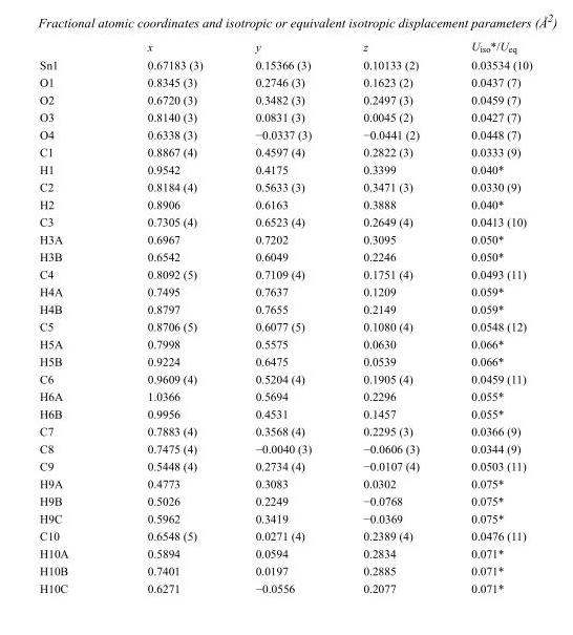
<table><thead><tr><td></td><td>x</td><td>y</td><td>z</td><td>U<sub>iso</sub>*/U<sub>eq</sub></td></tr></thead><tbody><tr><td>Sn1</td><td>0.67183 (3)</td><td>0.15366 (3)</td><td>0.10133 (2)</td><td>0.03534 (10)</td></tr><tr><td>O1</td><td>0.8345 (3)</td><td>0.2746 (3)</td><td>0.1623 (2)</td><td>0.0437 (7)</td></tr><tr><td>O2</td><td>0.6720 (3)</td><td>0.3482 (3)</td><td>0.2497 (3)</td><td>0.0459 (7)</td></tr><tr><td>O3</td><td>0.8140 (3)</td><td>0.0831 (3)</td><td>0.0045 (2)</td><td>0.0427 (7)</td></tr><tr><td>O4</td><td>0.6338 (3)</td><td>−0.0337 (3)</td><td>−0.0441 (2)</td><td>0.0448 (7)</td></tr><tr><td>C1</td><td>0.8867 (4)</td><td>0.4597 (4)</td><td>0.2822 (3)</td><td>0.0333 (9)</td></tr><tr><td>H1</td><td>0.9542</td><td>0.4175</td><td>0.3399</td><td>0.040*</td></tr><tr><td>C2</td><td>0.8184 (4)</td><td>0.5633 (3)</td><td>0.3471 (3)</td><td>0.0330 (9)</td></tr><tr><td>H2</td><td>0.8906</td><td>0.6163</td><td>0.3888</td><td>0.040*</td></tr><tr><td>C3</td><td>0.7305 (4)</td><td>0.6523 (4)</td><td>0.2649 (4)</td><td>0.0413 (10)</td></tr><tr><td>H3A</td><td>0.6967</td><td>0.7202</td><td>0.3095</td><td>0.050*</td></tr><tr><td>H3B</td><td>0.6542</td><td>0.6049</td><td>0.2246</td><td>0.050*</td></tr><tr><td>C4</td><td>0.8092 (5)</td><td>0.7109 (4)</td><td>0.1751 (4)</td><td>0.0493 (11)</td></tr><tr><td>H4A</td><td>0.7495</td><td>0.7637</td><td>0.1209</td><td>0.059*</td></tr><tr><td>H4B</td><td>0.8797</td><td>0.7655</td><td>0.2149</td><td>0.059*</td></tr><tr><td>C5</td><td>0.8706 (5)</td><td>0.6077 (5)</td><td>0.1080 (4)</td><td>0.0548 (12)</td></tr><tr><td>H5A</td><td>0.7998</td><td>0.5575</td><td>0.0630</td><td>0.066*</td></tr><tr><td>H5B</td><td>0.9224</td><td>0.6475</td><td>0.0539</td><td>0.066*</td></tr><tr><td>C6</td><td>0.9609 (4)</td><td>0.5204 (4)</td><td>0.1905 (4)</td><td>0.0459 (11)</td></tr><tr><td>H6A</td><td>1.0366</td><td>0.5694</td><td>0.2296</td><td>0.055*</td></tr><tr><td>H6B</td><td>0.9956</td><td>0.4531</td><td>0.1457</td><td>0.055*</td></tr><tr><td>C7</td><td>0.7883 (4)</td><td>0.3568 (4)</td><td>0.2295 (3)</td><td>0.0366 (9)</td></tr><tr><td>C8</td><td>0.7475 (4)</td><td>−0.0040 (3)</td><td>−0.0606 (3)</td><td>0.0344 (9)</td></tr><tr><td>C9</td><td>0.5448 (4)</td><td>0.2734 (4)</td><td>−0.0107 (4)</td><td>0.0503 (11)</td></tr><tr><td>H9A</td><td>0.4773</td><td>0.3083</td><td>0.0302</td><td>0.075*</td></tr><tr><td>H9B</td><td>0.5026</td><td>0.2249</td><td>−0.0768</td><td>0.075*</td></tr><tr><td>H9C</td><td>0.5962</td><td>0.3419</td><td>−0.0369</td><td>0.075*</td></tr><tr><td>C10</td><td>0.6548 (5)</td><td>0.0271 (4)</td><td>0.2389 (4)</td><td>0.0476 (11)</td></tr><tr><td>H10A</td><td>0.5894</td><td>0.0594</td><td>0.2834</td><td>0.071*</td></tr><tr><td>H10B</td><td>0.7401</td><td>0.0197</td><td>0.2885</td><td>0.071*</td></tr><tr><td>H10C</td><td>0.6271</td><td>−0.0556</td><td>0.2077</td><td>0.071*</td></tr></tbody></table>